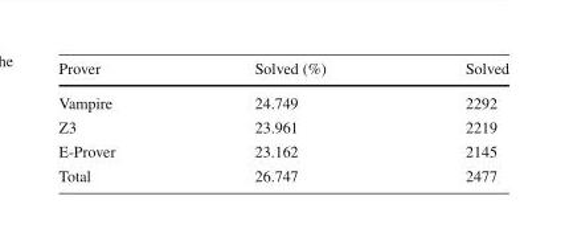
<table><thead><tr><td>Prover</td><td>Solved (%)</td><td>Solved</td></tr></thead><tbody><tr><td>Vampire</td><td>24.749</td><td>2292</td></tr><tr><td>Z3</td><td>23.961</td><td>2219</td></tr><tr><td>E-Prover</td><td>23.162</td><td>2145</td></tr><tr><td>Total</td><td>26.747</td><td>2477</td></tr></tbody></table>